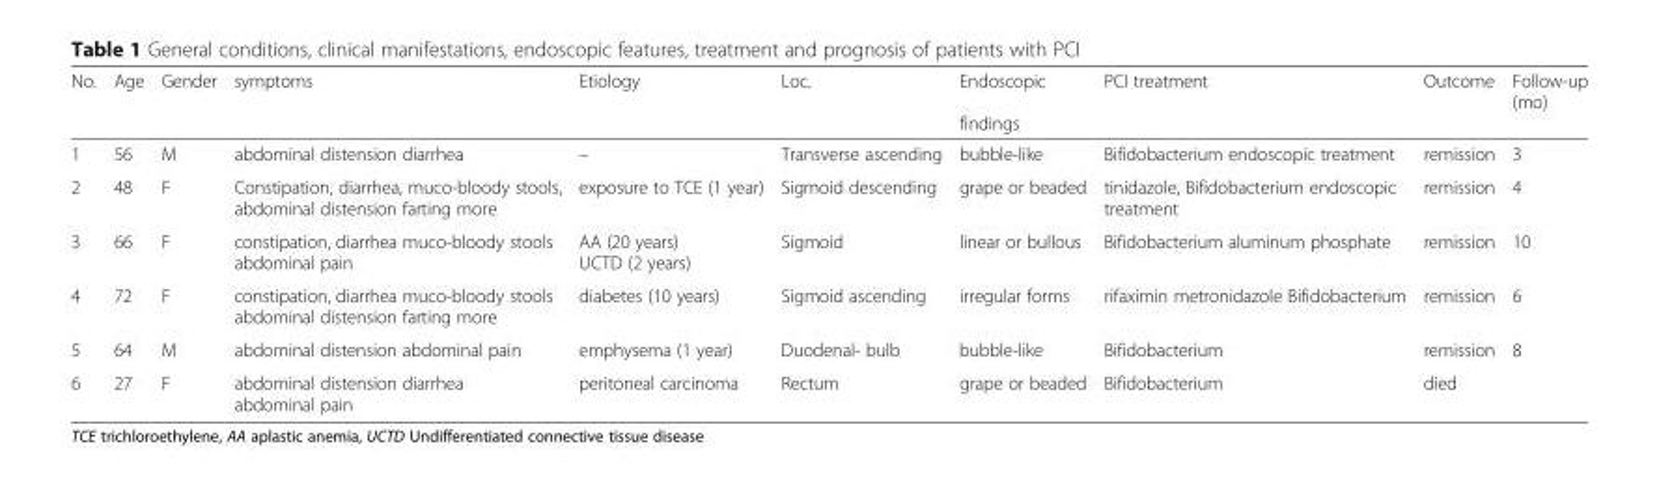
<table><thead><tr><td>No.</td><td>Age</td><td>Gender</td><td>symptoms</td><td>Etiology</td><td>Loc.</td><td>Endoscopic findings</td><td>PCI treatment</td><td>Outcome</td><td>Follow-up (mo)</td></tr></thead><tbody><tr><td>1</td><td>56</td><td>M</td><td>abdominal distension diarrhea</td><td>–</td><td>Transverse ascending</td><td>bubble-like</td><td>Bifidobacterium endoscopic treatment</td><td>remission</td><td>3</td></tr><tr><td>2</td><td>48</td><td>F</td><td>Constipation, diarrhea, muco-bloody stools, abdominal distension farting more</td><td>exposure to TCE (1 year)</td><td>Sigmoid descending</td><td>grape or beaded</td><td>tinidazole, Bifidobacterium endoscopic treatment</td><td>remission</td><td>4</td></tr><tr><td>3</td><td>66</td><td>F</td><td>constipation, diarrhea muco-bloody stools abdominal pain</td><td>AA (20 years) UCTD (2 years)</td><td>Sigmoid</td><td>linear or bullous</td><td>Bifidobacterium aluminum phosphate</td><td>remission</td><td>10</td></tr><tr><td>4</td><td>72</td><td>F</td><td>constipation, diarrhea muco-bloody stools abdominal distension farting more</td><td>diabetes (10 years)</td><td>Sigmoid ascending</td><td>irregular forms</td><td>rifaximin metronidazole Bifidobacterium</td><td>remission</td><td>6</td></tr><tr><td>5</td><td>64</td><td>M</td><td>abdominal distension abdominal pain</td><td>emphysema (1 year)</td><td>Duodenal- bulb</td><td>bubble-like</td><td>Bifidobacterium</td><td>remission</td><td>8</td></tr><tr><td>6</td><td>27</td><td>F</td><td>abdominal distension diarrhea abdominal pain</td><td>peritoneal carcinoma</td><td>Rectum</td><td>grape or beaded</td><td>Bifidobacterium</td><td>died</td><td></td></tr></tbody></table>